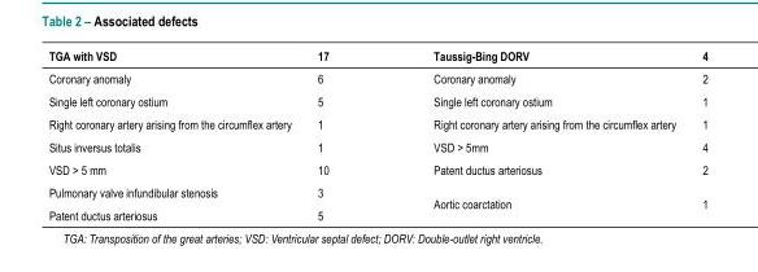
<table><thead><tr><td>TGA with VSD</td><td>17</td><td>Taussig-Bing DORV</td><td>4</td></tr></thead><tbody><tr><td>Coronary anomaly</td><td>6</td><td>Coronary anomaly</td><td>2</td></tr><tr><td>Single left coronary ostium</td><td>5</td><td>Single left coronary ostium</td><td>1</td></tr><tr><td>Right coronary artery arising from the circumflex artery</td><td>1</td><td>Right coronary artery arising from the circumflex artery</td><td>1</td></tr><tr><td>Situs inversus totalis</td><td>1</td><td>VSD &gt; 5mm</td><td>4</td></tr><tr><td>VSD &gt; 5 mm</td><td>10</td><td>Patent ductus arteriosus</td><td>2</td></tr><tr><td>Pulmonary valve infundibular stenosis</td><td>3</td><td rowspan="2">Aortic coarctation</td><td rowspan="2">1</td></tr><tr><td>Patent ductus arteriosus</td><td>5</td></tr></tbody></table>